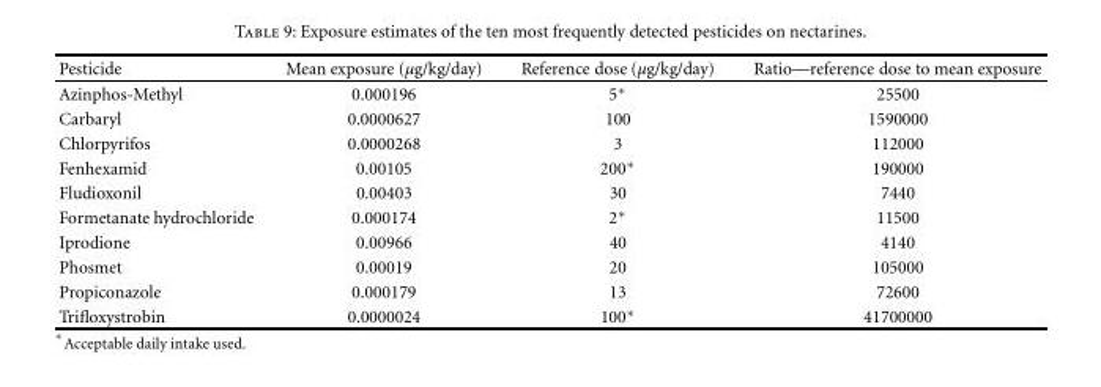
<table><thead><tr><td>Pesticide</td><td>Mean exposure (µg/kg/day)</td><td>Reference dose (µg/kg/day)</td><td>Ratio—reference dose to mean exposure</td></tr></thead><tbody><tr><td>Azinphos-Methyl</td><td>0.000196</td><td>5∗</td><td>25500</td></tr><tr><td>Carbaryl</td><td>0.0000627</td><td>100</td><td>1590000</td></tr><tr><td>Chlorpyrifos</td><td>0.0000268</td><td>3</td><td>112000</td></tr><tr><td>Fenhexamid</td><td>0.00105</td><td>200∗</td><td>190000</td></tr><tr><td>Fludioxonil</td><td>0.00403</td><td>30</td><td>7440</td></tr><tr><td>Formetanate hydrochloride</td><td>0.000174</td><td>2∗</td><td>11500</td></tr><tr><td>Iprodione</td><td>0.00966</td><td>40</td><td>4140</td></tr><tr><td>Phosmet</td><td>0.00019</td><td>20</td><td>105000</td></tr><tr><td>Propiconazole</td><td>0.000179</td><td>13</td><td>72600</td></tr><tr><td>Trifloxystrobin</td><td>0.0000024</td><td>100∗</td><td>41700000</td></tr></tbody></table>